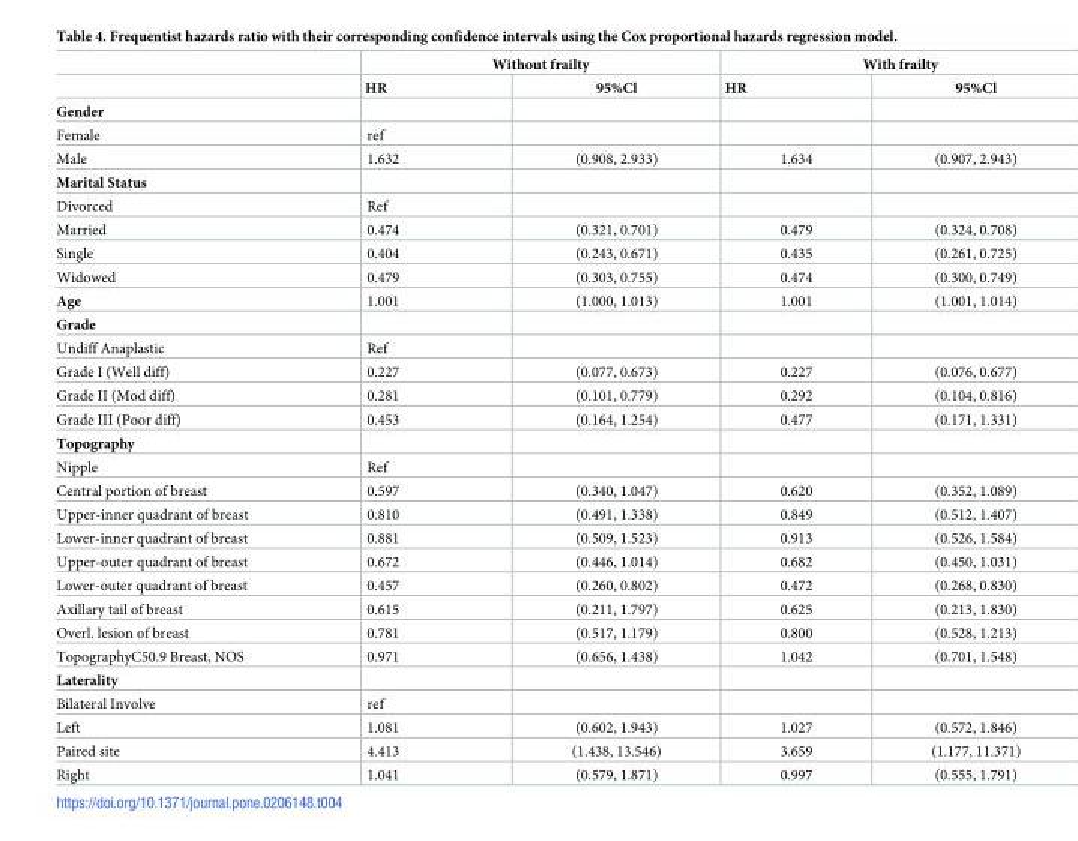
<table><thead><tr><td rowspan="2"></td><td colspan="2">Without frailty</td><td colspan="2">With frailty</td></tr><tr><td>HR</td><td>95%Cl</td><td>HR</td><td>95%Cl</td></tr></thead><tbody><tr><td colspan="5">Gender</td></tr><tr><td>Female</td><td>ref</td><td></td><td></td><td></td></tr><tr><td>Male</td><td>1.632</td><td>(0.908, 2.933)</td><td>1.634</td><td>(0.907, 2.943)</td></tr><tr><td colspan="5">Marital Status</td></tr><tr><td>Divorced</td><td>Ref</td><td></td><td></td><td></td></tr><tr><td>Married</td><td>0.474</td><td>(0.321, 0.701)</td><td>0.479</td><td>(0.324, 0.708)</td></tr><tr><td>Single</td><td>0.404</td><td>(0.243, 0.671)</td><td>0.435</td><td>(0.261, 0.725)</td></tr><tr><td>Widowed</td><td>0.479</td><td>(0.303, 0.755)</td><td>0.474</td><td>(0.300, 0.749)</td></tr><tr><td>Age</td><td>1.001</td><td>(1.000, 1.013)</td><td>1.001</td><td>(1.001, 1.014)</td></tr><tr><td colspan="5">Grade</td></tr><tr><td>Undiff Anaplastic</td><td>Ref</td><td></td><td></td><td></td></tr><tr><td>Grade I (Well diff)</td><td>0.227</td><td>(0.077, 0.673)</td><td>0.227</td><td>(0.076, 0.677)</td></tr><tr><td>Grade II (Mod diff)</td><td>0.281</td><td>(0.101, 0.779)</td><td>0.292</td><td>(0.104, 0.816)</td></tr><tr><td>Grade III (Poor diff)</td><td>0.453</td><td>(0.164, 1.254)</td><td>0.477</td><td>(0.171, 1.331)</td></tr><tr><td colspan="5">Topography</td></tr><tr><td>Nipple</td><td>Ref</td><td></td><td></td><td></td></tr><tr><td>Central portion of breast</td><td>0.597</td><td>(0.340, 1.047)</td><td>0.620</td><td>(0.352, 1.089)</td></tr><tr><td>Upper-inner quadrant of breast</td><td>0.810</td><td>(0.491, 1.338)</td><td>0.849</td><td>(0.512, 1.407)</td></tr><tr><td>Lower-inner quadrant of breast</td><td>0.881</td><td>(0.509, 1.523)</td><td>0.913</td><td>(0.526, 1.584)</td></tr><tr><td>Upper-outer quadrant of breast</td><td>0.672</td><td>(0.446, 1.014)</td><td>0.682</td><td>(0.450, 1.031)</td></tr><tr><td>Lower-outer quadrant of breast</td><td>0.457</td><td>(0.260, 0.802)</td><td>0.472</td><td>(0.268, 0.830)</td></tr><tr><td>Axillary tail of breast</td><td>0.615</td><td>(0.211, 1.797)</td><td>0.625</td><td>(0.213, 1.830)</td></tr><tr><td>Overl. lesion of breast</td><td>0.781</td><td>(0.517, 1.179)</td><td>0.800</td><td>(0.528, 1.213)</td></tr><tr><td>TopographyC50.9 Breast, NOS</td><td>0.971</td><td>(0.656, 1.438)</td><td>1.042</td><td>(0.701, 1.548)</td></tr><tr><td colspan="5">Laterality</td></tr><tr><td>Bilateral Involve</td><td>ref</td><td></td><td></td><td></td></tr><tr><td>Left</td><td>1.081</td><td>(0.602, 1.943)</td><td>1.027</td><td>(0.572, 1.846)</td></tr><tr><td>Paired site</td><td>4.413</td><td>(1.438, 13.546)</td><td>3.659</td><td>(1.177, 11.371)</td></tr><tr><td>Right</td><td>1.041</td><td>(0.579, 1.871)</td><td>0.997</td><td>(0.555, 1.791)</td></tr></tbody></table>